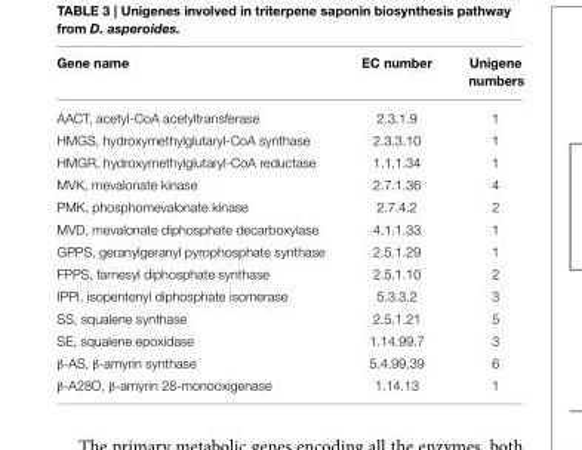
<table><thead><tr><td>Gene name</td><td>EC number</td><td>Unigene numbers</td></tr></thead><tbody><tr><td>AACT, acetyl-CoA acetyltransferase</td><td>2.3.1.9</td><td>1</td></tr><tr><td>HMGS, hydroxymethylglutaryl-CoA synthase</td><td>2.3.3.10</td><td>1</td></tr><tr><td>HMGR, hydroxymethylglutaryl-CoA reductase</td><td>1.1.1.34</td><td>1</td></tr><tr><td>MVK, mevalonate kinase</td><td>2.7.1.36</td><td>4</td></tr><tr><td>PMK, phosphomevalonate kinase</td><td>2.7.4.2</td><td>2</td></tr><tr><td>MVD, mevalonate diphosphate decarboxylase</td><td>4.1.1.33</td><td>1</td></tr><tr><td>GPPS, geranylgeranyl pyrophosphate synthase</td><td>2.5.1.29</td><td>1</td></tr><tr><td>FPPS, farnesyl diphosphate synthase</td><td>2.5.1.10</td><td>2</td></tr><tr><td>IPPI, isopentenyl diphosphate isomerase</td><td>5.3.3.2</td><td>3</td></tr><tr><td>SS, squalene synthase</td><td>2.5.1.21</td><td>5</td></tr><tr><td>SE, squalene epoxidase</td><td>1.14.99.7</td><td>3</td></tr><tr><td>β-AS, β-amyrin synthase</td><td>5.4.99.39</td><td>6</td></tr><tr><td>β-A28O, β-amyrin 28-monooxigenase</td><td>1.14.13</td><td>1</td></tr></tbody></table>